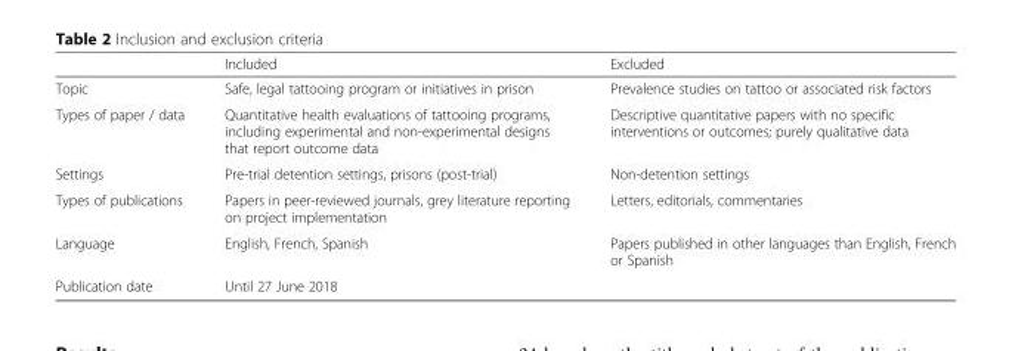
<table><thead><tr><td></td><td>Included</td><td>Excluded</td></tr></thead><tbody><tr><td>Topic</td><td>Safe, legal tattooing program or initiatives in prison</td><td>Prevalence studies on tattoo or associated risk factors</td></tr><tr><td>Types of paper / data</td><td>Quantitative health evaluations of tattooing programs, including experimental and non-experimental designs that report outcome data</td><td>Descriptive quantitative papers with no specific interventions or outcomes; purely qualitative data</td></tr><tr><td>Settings</td><td>Pre-trial detention settings, prisons (post-trial)</td><td>Non-detention settings</td></tr><tr><td>Types of publications</td><td>Papers in peer-reviewed journals, grey literature reporting on project implementation</td><td>Letters, editorials, commentaries</td></tr><tr><td>Language</td><td>English, French, Spanish</td><td>Papers published in other languages than English, French or Spanish</td></tr><tr><td>Publication date</td><td>Until 27 June 2018</td><td></td></tr></tbody></table>